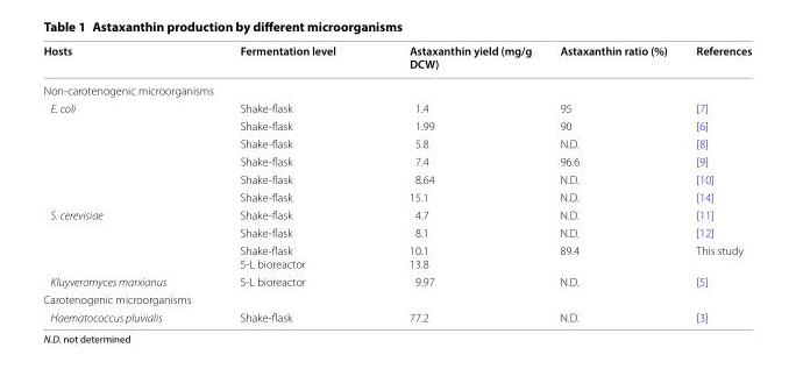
<table><thead><tr><td>Hosts</td><td>Fermentation level</td><td>Astaxanthin yield (mg/g DCW)</td><td>Astaxanthin ratio (%)</td><td>References</td></tr></thead><tbody><tr><td colspan="5">Non-carotenogenic microorganisms</td></tr><tr><td rowspan="6">E. coli</td><td>Shake-flask</td><td>1.4</td><td>95</td><td>[7]</td></tr><tr><td>Shake-flask</td><td>1.99</td><td>90</td><td>[6]</td></tr><tr><td>Shake-flask</td><td>5.8</td><td>N.D.</td><td>[8]</td></tr><tr><td>Shake-flask</td><td>7.4</td><td>96.6</td><td>[9]</td></tr><tr><td>Shake-flask</td><td>8.64</td><td>N.D.</td><td>[10]</td></tr><tr><td>Shake-flask</td><td>15.1</td><td>N.D.</td><td>[14]</td></tr><tr><td rowspan="3">S. cerevisiae</td><td>Shake-flask</td><td>4.7</td><td>N.D.</td><td>[11]</td></tr><tr><td>Shake-flask</td><td>8.1</td><td>N.D.</td><td>[12]</td></tr><tr><td>Shake-flask 5-L bioreactor</td><td>10.1 13.8</td><td>89.4</td><td>This study</td></tr><tr><td>Kluyveromyces marxianus</td><td>5-L bioreactor</td><td>9.97</td><td>N.D.</td><td>[5]</td></tr><tr><td colspan="5">Carotenogenic microorganisms</td></tr><tr><td>Haematococcus pluvialis</td><td>Shake-flask</td><td>77.2</td><td>N.D.</td><td>[3]</td></tr></tbody></table>